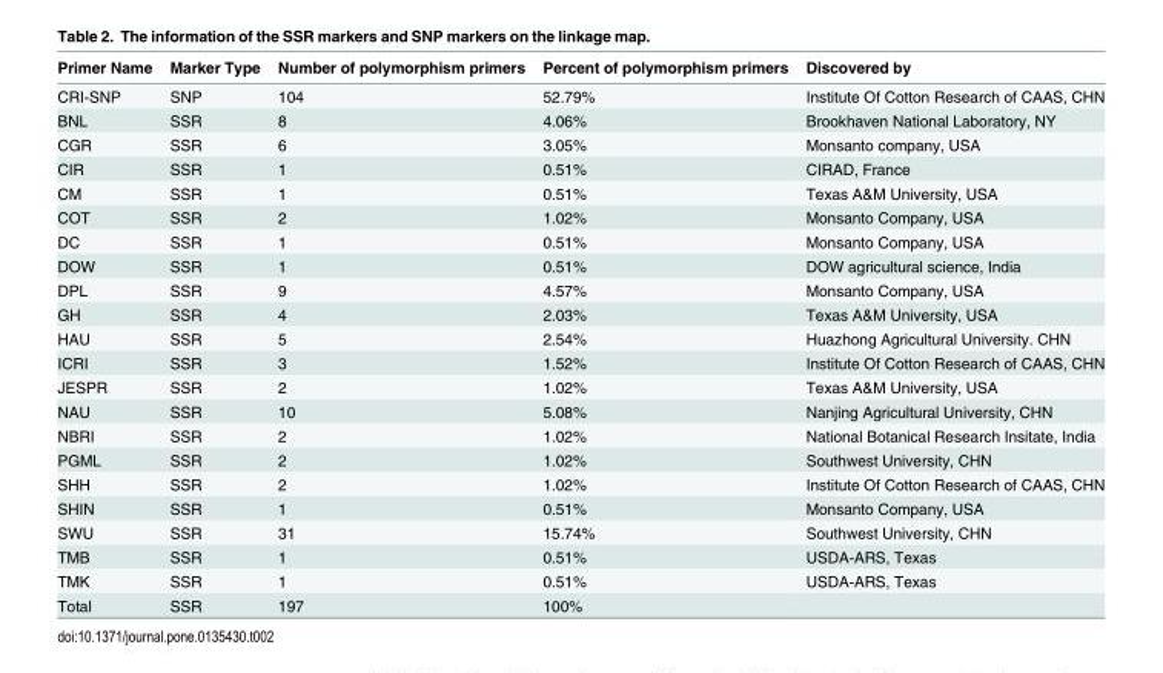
<table><thead><tr><td>Primer Name</td><td>Marker Type</td><td>Number of polymorphism primers</td><td>Percent of polymorphism primers</td><td>Discovered by</td></tr></thead><tbody><tr><td>CRI-SNP</td><td>SNP</td><td>104</td><td>52.79%</td><td>Institute Of Cotton Research of CAAS, CHN</td></tr><tr><td>BNL</td><td>SSR</td><td>8</td><td>4.06%</td><td>Brookhaven National Laboratory, NY</td></tr><tr><td>CGR</td><td>SSR</td><td>6</td><td>3.05%</td><td>Monsanto company, USA</td></tr><tr><td>CIR</td><td>SSR</td><td>1</td><td>0.51%</td><td>CIRAD, France</td></tr><tr><td>CM</td><td>SSR</td><td>1</td><td>0.51%</td><td>Texas A&amp;M University, USA</td></tr><tr><td>COT</td><td>SSR</td><td>2</td><td>1.02%</td><td>Monsanto Company, USA</td></tr><tr><td>DC</td><td>SSR</td><td>1</td><td>0.51%</td><td>Monsanto Company, USA</td></tr><tr><td>DOW</td><td>SSR</td><td>1</td><td>0.51%</td><td>DOW agricultural science, India</td></tr><tr><td>DPL</td><td>SSR</td><td>9</td><td>4.57%</td><td>Monsanto Company, USA</td></tr><tr><td>GH</td><td>SSR</td><td>4</td><td>2.03%</td><td>Texas A&amp;M University, USA</td></tr><tr><td>HAU</td><td>SSR</td><td>5</td><td>2.54%</td><td>Huazhong Agricultural University. CHN</td></tr><tr><td>ICRI</td><td>SSR</td><td>3</td><td>1.52%</td><td>Institute Of Cotton Research of CAAS, CHN</td></tr><tr><td>JESPR</td><td>SSR</td><td>2</td><td>1.02%</td><td>Texas A&amp;M University, USA</td></tr><tr><td>NAU</td><td>SSR</td><td>10</td><td>5.08%</td><td>Nanjing Agricultural University, CHN</td></tr><tr><td>NBRI</td><td>SSR</td><td>2</td><td>1.02%</td><td>National Botanical Research Insitate, India</td></tr><tr><td>PGML</td><td>SSR</td><td>2</td><td>1.02%</td><td>Southwest University, CHN</td></tr><tr><td>SHH</td><td>SSR</td><td>2</td><td>1.02%</td><td>Institute Of Cotton Research of CAAS, CHN</td></tr><tr><td>SHIN</td><td>SSR</td><td>1</td><td>0.51%</td><td>Monsanto Company, USA</td></tr><tr><td>SWU</td><td>SSR</td><td>31</td><td>15.74%</td><td>Southwest University, CHN</td></tr><tr><td>TMB</td><td>SSR</td><td>1</td><td>0.51%</td><td>USDA-ARS, Texas</td></tr><tr><td>TMK</td><td>SSR</td><td>1</td><td>0.51%</td><td>USDA-ARS, Texas</td></tr><tr><td>Total</td><td>SSR</td><td>197</td><td>100%</td><td></td></tr></tbody></table>